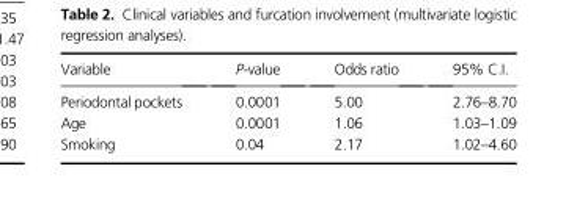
<table><thead><tr><td>Variable</td><td>P-value</td><td>Odds ratio</td><td>95% C.I.</td></tr></thead><tbody><tr><td>Periodontal pockets</td><td>0.0001</td><td>5.00</td><td>2.76–8.70</td></tr><tr><td>Age</td><td>0.0001</td><td>1.06</td><td>1.03–1.09</td></tr><tr><td>Smoking</td><td>0.04</td><td>2.17</td><td>1.02–4.60</td></tr></tbody></table>